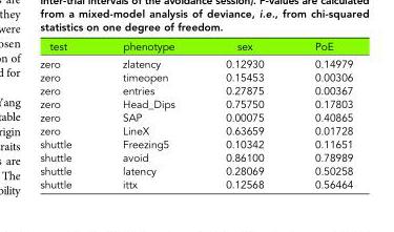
<table><thead><tr><td>test</td><td>phenotype</td><td>sex</td><td>PoE</td></tr></thead><tbody><tr><td>zero</td><td>zlatency</td><td>0.12930</td><td>0.14979</td></tr><tr><td>zero</td><td>timeopen</td><td>0.15453</td><td>0.00306</td></tr><tr><td>zero</td><td>entries</td><td>0.27875</td><td>0.00367</td></tr><tr><td>zero</td><td>Head_Dips</td><td>0.75750</td><td>0.17803</td></tr><tr><td>zero</td><td>SAP</td><td>0.00075</td><td>0.40865</td></tr><tr><td>zero</td><td>LineX</td><td>0.63659</td><td>0.01728</td></tr><tr><td>shuttle</td><td>Freezing5</td><td>0.10342</td><td>0.11651</td></tr><tr><td>shuttle</td><td>avoid</td><td>0.86100</td><td>0.78989</td></tr><tr><td>shuttle</td><td>latency</td><td>0.28069</td><td>0.50258</td></tr><tr><td>shuttle</td><td>ittx</td><td>0.12568</td><td>0.56464</td></tr></tbody></table>